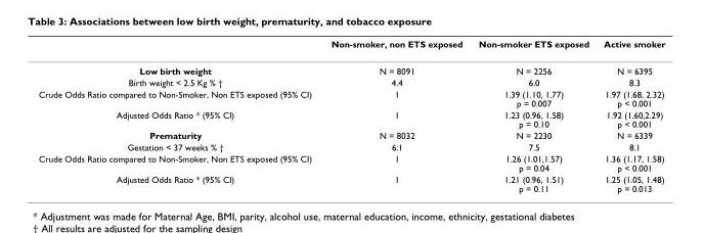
<table><thead><tr><td></td><td>Non-smoker, non ETS exposed</td><td>Non-smoker ETS exposed</td><td>Active smoker</td></tr></thead><tbody><tr><td>Low birth weight</td><td>N = 8091</td><td>N = 2256</td><td>N = 6395</td></tr><tr><td>Birth weight &lt; 2.5 Kg % †</td><td>4.4</td><td>6.0</td><td>8.3</td></tr><tr><td>Crude Odds Ratio compared to Non-Smoker, Non ETS exposed (95% CI)</td><td>1</td><td>1.39 (1.10, 1.77) p = 0.007</td><td>1.97 (1.68, 2.32) p &lt; 0.001</td></tr><tr><td>Adjusted Odds Ratio * (95% CI)</td><td>1</td><td>1.23 (0.96, 1.58) p = 0.10</td><td>1.92 (1.60,2.29) p &lt; 0.001</td></tr><tr><td>Prematurity</td><td>N = 8032</td><td>N = 2230</td><td>N = 6339</td></tr><tr><td>Gestation &lt; 37 weeks % †</td><td>6.1</td><td>7.5</td><td>8.1</td></tr><tr><td>Crude Odds Ratio compared to Non-Smoker, Non ETS exposed (95% CI)</td><td>1</td><td>1.26 (1.01,1.57) p = 0.04</td><td>1.36 (1.17, 1.58) p &lt; 0.001</td></tr><tr><td>Adjusted Odds Ratio * (95% CI)</td><td>1</td><td>1.21 (0.96, 1.51) p = 0.11</td><td>1.25 (1.05, 1.48) p = 0.013</td></tr></tbody></table>